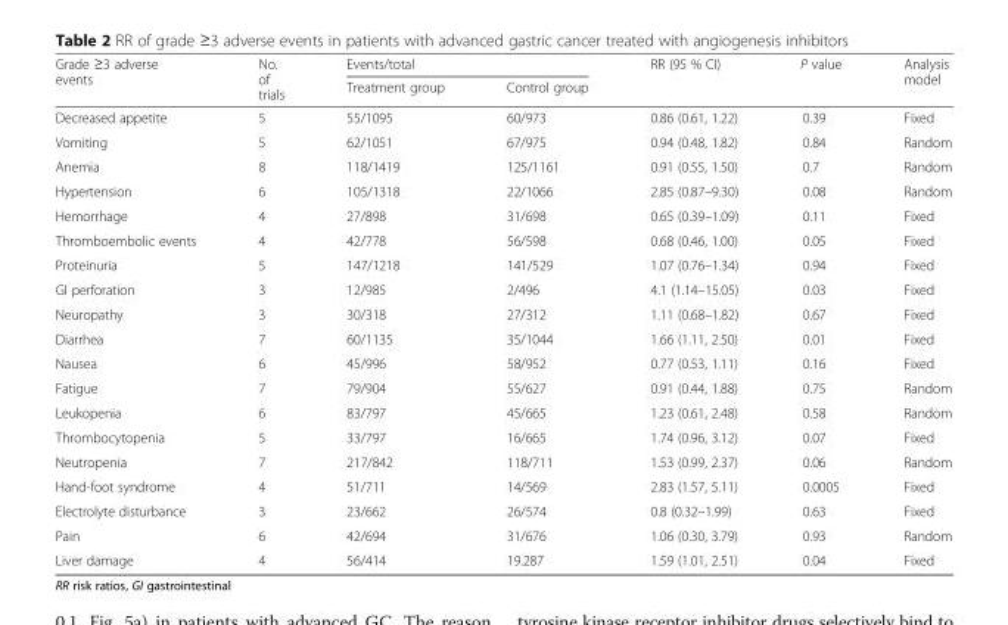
<table><thead><tr><td rowspan="2">Grade ≥3 adverse events</td><td rowspan="2">No. of trials</td><td colspan="2">Events/total</td><td rowspan="2">RR (95 % CI)</td><td rowspan="2">P value</td><td rowspan="2">Analysis model</td></tr><tr><td>Treatment group</td><td>Control group</td></tr></thead><tbody><tr><td>Decreased appetite</td><td>5</td><td>55/1095</td><td>60/973</td><td>0.86 (0.61, 1.22)</td><td>0.39</td><td>Fixed</td></tr><tr><td>Vomiting</td><td>5</td><td>62/1051</td><td>67/975</td><td>0.94 (0.48, 1.82)</td><td>0.84</td><td>Random</td></tr><tr><td>Anemia</td><td>8</td><td>118/1419</td><td>125/1161</td><td>0.91 (0.55, 1.50)</td><td>0.7</td><td>Random</td></tr><tr><td>Hypertension</td><td>6</td><td>105/1318</td><td>22/1066</td><td>2.85 (0.87–9.30)</td><td>0.08</td><td>Random</td></tr><tr><td>Hemorrhage</td><td>4</td><td>27/898</td><td>31/698</td><td>0.65 (0.39–1.09)</td><td>0.11</td><td>Fixed</td></tr><tr><td>Thromboembolic events</td><td>4</td><td>42/778</td><td>56/598</td><td>0.68 (0.46, 1.00)</td><td>0.05</td><td>Fixed</td></tr><tr><td>Proteinuria</td><td>5</td><td>147/1218</td><td>141/529</td><td>1.07 (0.76–1.34)</td><td>0.94</td><td>Fixed</td></tr><tr><td>GI perforation</td><td>3</td><td>12/985</td><td>2/496</td><td>4.1 (1.14–15.05)</td><td>0.03</td><td>Fixed</td></tr><tr><td>Neuropathy</td><td>3</td><td>30/318</td><td>27/312</td><td>1.11 (0.68–1.82)</td><td>0.67</td><td>Fixed</td></tr><tr><td>Diarrhea</td><td>7</td><td>60/1135</td><td>35/1044</td><td>1.66 (1.11, 2.50)</td><td>0.01</td><td>Fixed</td></tr><tr><td>Nausea</td><td>6</td><td>45/996</td><td>58/952</td><td>0.77 (0.53, 1.11)</td><td>0.16</td><td>Fixed</td></tr><tr><td>Fatigue</td><td>7</td><td>79/904</td><td>55/627</td><td>0.91 (0.44, 1.88)</td><td>0.75</td><td>Random</td></tr><tr><td>Leukopenia</td><td>6</td><td>83/797</td><td>45/665</td><td>1.23 (0.61, 2.48)</td><td>0.58</td><td>Random</td></tr><tr><td>Thrombocytopenia</td><td>5</td><td>33/797</td><td>16/665</td><td>1.74 (0.96, 3.12)</td><td>0.07</td><td>Fixed</td></tr><tr><td>Neutropenia</td><td>7</td><td>217/842</td><td>118/711</td><td>1.53 (0.99, 2.37)</td><td>0.06</td><td>Random</td></tr><tr><td>Hand-foot syndrome</td><td>4</td><td>51/711</td><td>14/569</td><td>2.83 (1.57, 5.11)</td><td>0.0005</td><td>Fixed</td></tr><tr><td>Electrolyte disturbance</td><td>3</td><td>23/662</td><td>26/574</td><td>0.8 (0.32–1.99)</td><td>0.63</td><td>Fixed</td></tr><tr><td>Pain</td><td>6</td><td>42/694</td><td>31/676</td><td>1.06 (0.30, 3.79)</td><td>0.93</td><td>Random</td></tr><tr><td>Liver damage</td><td>4</td><td>56/414</td><td>19.287</td><td>1.59 (1.01, 2.51)</td><td>0.04</td><td>Fixed</td></tr></tbody></table>